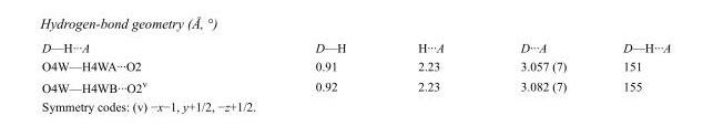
<table><tbody><tr><td>D—H···A</td><td>D—H</td><td>H···A</td><td>D···A</td><td>D—H···A</td></tr><tr><td>O4W—H4WA···O2</td><td>0.91</td><td>2.23</td><td>3.057 (7)</td><td>151</td></tr><tr><td>O4W—H4WB···O2<sup>v</sup></td><td>0.92</td><td>2.23</td><td>3.082 (7)</td><td>155</td></tr></tbody></table>